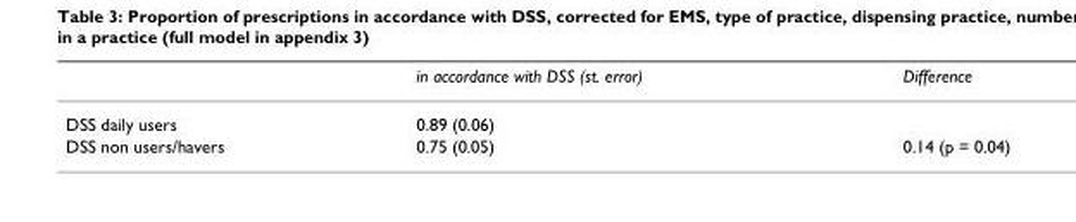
<table><thead><tr><td></td><td>in accordance with DSS (st. error)</td><td>Difference</td></tr></thead><tbody><tr><td>DSS daily users</td><td>0.89 (0.06)</td><td></td></tr><tr><td>DSS non users/havers</td><td>0.75 (0.05)</td><td>0.14 (p = 0.04)</td></tr></tbody></table>